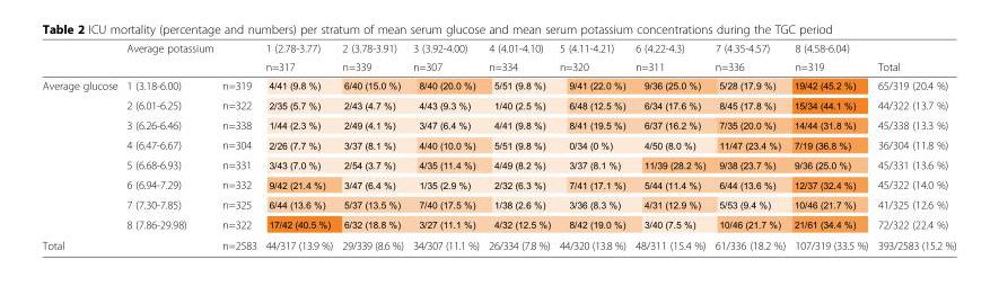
<table><thead><tr><td rowspan="2"></td><td rowspan="2">Average potassium</td><td rowspan="2"></td><td rowspan="2">1 (2.78-3.77) n=317</td><td rowspan="2">2 (3.78-3.91) n=339</td><td rowspan="2">3 (3.92-4.00) n=307</td><td rowspan="2">4 (4.01-4.10) n=334</td><td rowspan="2">5 (4.11-4.21) n=320</td><td rowspan="2">6 (4.22-4.3) n=311</td><td rowspan="2">7 (4.35-4.57) n=336</td><td rowspan="2">8 (4.58-6.04) n=319</td><td rowspan="2">Total</td></tr><tr></tr></thead><tbody><tr><td rowspan="8">Average glucose</td><td>1 (3.18-6.00)</td><td>n=319</td><td rowspan="8" colspan="8"></td><td>65/319 (20.4 %)</td></tr><tr><td>2 (6.01-6.25)</td><td>n=322</td><td>44/322 (13.7 %)</td></tr><tr><td>3 (6.26-6.46)</td><td>n=338</td><td>45/338 (13.3 %)</td></tr><tr><td>4 (6.47-6.67)</td><td>n=304</td><td>36/304 (11.8 %)</td></tr><tr><td>5 (6.68-6.93)</td><td>n=331</td><td>45/331 (13.6 %)</td></tr><tr><td>6 (6.94-7.29)</td><td>n=332</td><td>45/322 (14.0 %)</td></tr><tr><td>7 (7.30-7.85)</td><td>n=325</td><td>41/325 (12.6 %)</td></tr><tr><td>8 (7.86-29.98)</td><td>n=322</td><td>72/322 (22.4 %)</td></tr><tr><td>Total</td><td></td><td>n=2583</td><td>44/317 (13.9 %)</td><td>29/339 (8.6 %)</td><td>34/307 (11.1 %)</td><td>26/334 (7.8 %)</td><td>44/320 (13.8 %)</td><td>48/311 (15.4 %)</td><td>61/336 (18.2 %)</td><td>107/319 (33.5 %)</td><td>393/2583 (15.2 %)</td></tr></tbody></table>